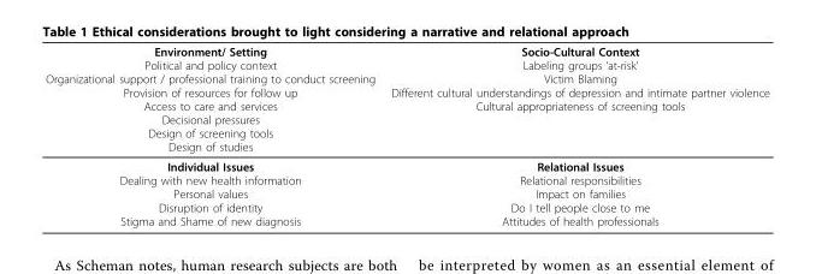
<table><thead><tr><td>Environment/ Setting Political and policy context Organizational support / professional training to conduct screening Provision of resources for follow up Access to care and services Decisional pressures Design of screening tools Design of studies</td><td>Socio-Cultural Context Labeling groups ‘at-risk’ Victim Blaming Different cultural understandings of depression and intimate partner violence Cultural appropriateness of screening tools</td></tr></thead><tbody><tr><td>Individual Issues Dealing with new health information Personal values Disruption of identity Stigma and Shame of new diagnosis</td><td>Relational Issues Relational responsibilities Impact on families Do I tell people close to me Attitudes of health professionals</td></tr></tbody></table>